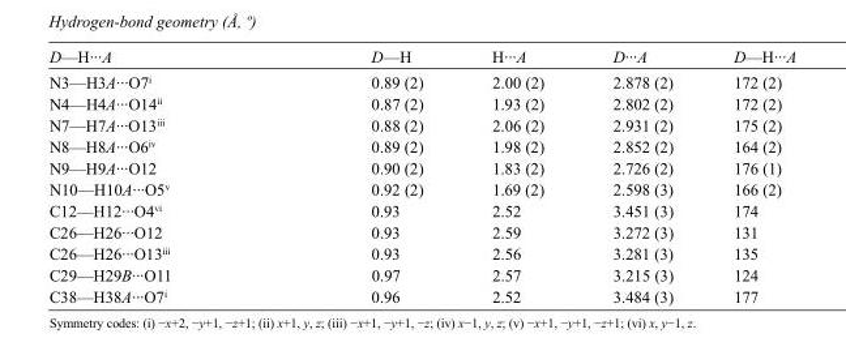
<table><tbody><tr><td>D—H···A</td><td>D—H</td><td>H···A</td><td>D···A</td><td>D—H···A</td></tr><tr><td>N3—H3A···O7<sup>i</sup></td><td>0.89 (2)</td><td>2.00 (2)</td><td>2.878 (2)</td><td>172 (2)</td></tr><tr><td>N4—H4A···O14<sup>ii</sup></td><td>0.87 (2)</td><td>1.93 (2)</td><td>2.802 (2)</td><td>172 (2)</td></tr><tr><td>N7—H7A···O13<sup>iii</sup></td><td>0.88 (2)</td><td>2.06 (2)</td><td>2.931 (2)</td><td>175 (2)</td></tr><tr><td>N8—H8A···O6<sup>iv</sup></td><td>0.89 (2)</td><td>1.98 (2)</td><td>2.852 (2)</td><td>164 (2)</td></tr><tr><td>N9—H9A···O12</td><td>0.90 (2)</td><td>1.83 (2)</td><td>2.726 (2)</td><td>176 (1)</td></tr><tr><td>N10—H10A···O5<sup>v</sup></td><td>0.92 (2)</td><td>1.69 (2)</td><td>2.598 (3)</td><td>166 (2)</td></tr><tr><td>C12—H12···O4<sup>vi</sup></td><td>0.93</td><td>2.52</td><td>3.451 (3)</td><td>174</td></tr><tr><td>C26—H26···O12</td><td>0.93</td><td>2.59</td><td>3.272 (3)</td><td>131</td></tr><tr><td>C26—H26···O13<sup>iii</sup></td><td>0.93</td><td>2.56</td><td>3.281 (3)</td><td>135</td></tr><tr><td>C29—H29B···O11</td><td>0.97</td><td>2.57</td><td>3.215 (3)</td><td>124</td></tr><tr><td>C38—H38A···O7<sup>i</sup></td><td>0.96</td><td>2.52</td><td>3.484 (3)</td><td>177</td></tr></tbody></table>